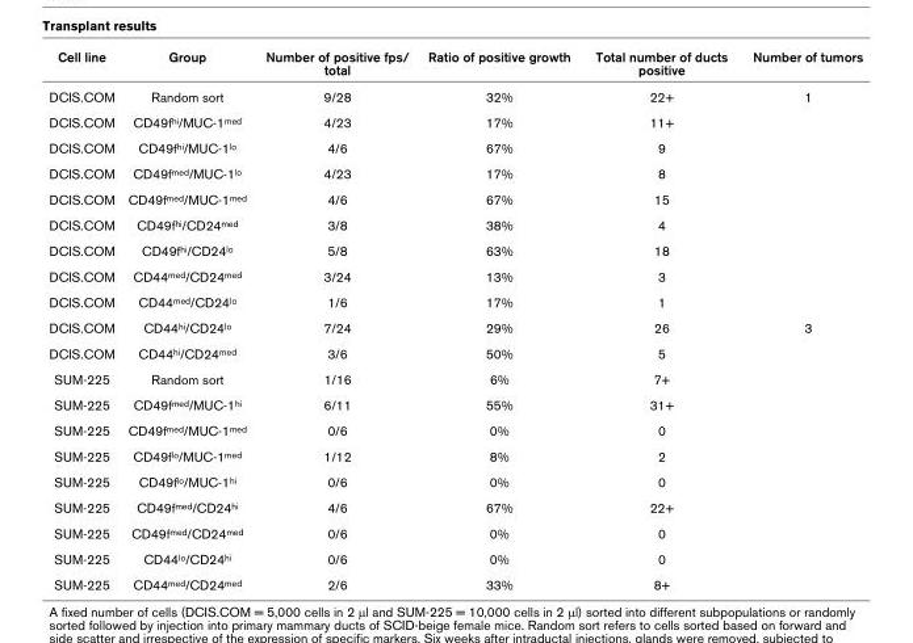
<table><thead><tr><td>Cell line</td><td>Group</td><td>Number of positive fps/ total</td><td>Ratio of positive growth</td><td>Total number of ducts positive</td><td>Number of tumors</td></tr></thead><tbody><tr><td>DCIS.COM</td><td>Random sort</td><td>9/28</td><td>32%</td><td>22+</td><td>1</td></tr><tr><td>DCIS.COM</td><td>CD49f<sup>hi</sup>/MUC-1<sup>med</sup></td><td>4/23</td><td>17%</td><td>11+</td><td></td></tr><tr><td>DCIS.COM</td><td>CD49f<sup>hi</sup>/MUC-1<sup>lo</sup></td><td>4/6</td><td>67%</td><td>9</td><td></td></tr><tr><td>DCIS.COM</td><td>CD49f<sup>med</sup>/MUC-1<sup>lo</sup></td><td>4/23</td><td>17%</td><td>8</td><td></td></tr><tr><td>DCIS.COM</td><td>CD49f<sup>med</sup>/MUC-1<sup>med</sup></td><td>4/6</td><td>67%</td><td>15</td><td></td></tr><tr><td>DCIS.COM</td><td>CD49f<sup>hi</sup>/CD24<sup>med</sup></td><td>3/8</td><td>38%</td><td>4</td><td></td></tr><tr><td>DCIS.COM</td><td>CD49f<sup>hi</sup>/CD24<sup>lo</sup></td><td>5/8</td><td>63%</td><td>18</td><td></td></tr><tr><td>DCIS.COM</td><td>CD44<sup>med</sup>/CD24<sup>med</sup></td><td>3/24</td><td>13%</td><td>3</td><td></td></tr><tr><td>DCIS.COM</td><td>CD44<sup>med</sup>/CD24<sup>lo</sup></td><td>1/6</td><td>17%</td><td>1</td><td></td></tr><tr><td>DCIS.COM</td><td>CD44<sup>hi</sup>/CD24<sup>lo</sup></td><td>7/24</td><td>29%</td><td>26</td><td>3</td></tr><tr><td>DCIS.COM</td><td>CD44<sup>hi</sup>/CD24<sup>med</sup></td><td>3/6</td><td>50%</td><td>5</td><td></td></tr><tr><td>SUM-225</td><td>Random sort</td><td>1/16</td><td>6%</td><td>7+</td><td></td></tr><tr><td>SUM-225</td><td>CD49f<sup>med</sup>/MUC-1<sup>hi</sup></td><td>6/11</td><td>55%</td><td>31+</td><td></td></tr><tr><td>SUM-225</td><td>CD49f<sup>med</sup>/MUC-1<sup>med</sup></td><td>0/6</td><td>0%</td><td>0</td><td></td></tr><tr><td>SUM-225</td><td>CD49f<sup>lo</sup>/MUC-1<sup>med</sup></td><td>1/12</td><td>8%</td><td>2</td><td></td></tr><tr><td>SUM-225</td><td>CD49f<sup>lo</sup>/MUC-1<sup>hi</sup></td><td>0/6</td><td>0%</td><td>0</td><td></td></tr><tr><td>SUM-225</td><td>CD49f<sup>med</sup>/CD24<sup>hi</sup></td><td>4/6</td><td>67%</td><td>22+</td><td></td></tr><tr><td>SUM-225</td><td>CD49f<sup>med</sup>/CD24<sup>med</sup></td><td>0/6</td><td>0%</td><td>0</td><td></td></tr><tr><td>SUM-225</td><td>CD44<sup>lo</sup>/CD24<sup>hi</sup></td><td>0/6</td><td>0%</td><td>0</td><td></td></tr><tr><td>SUM-225</td><td>CD44<sup>med</sup>/CD24<sup>med</sup></td><td>2/6</td><td>33%</td><td>8+</td><td></td></tr></tbody></table>